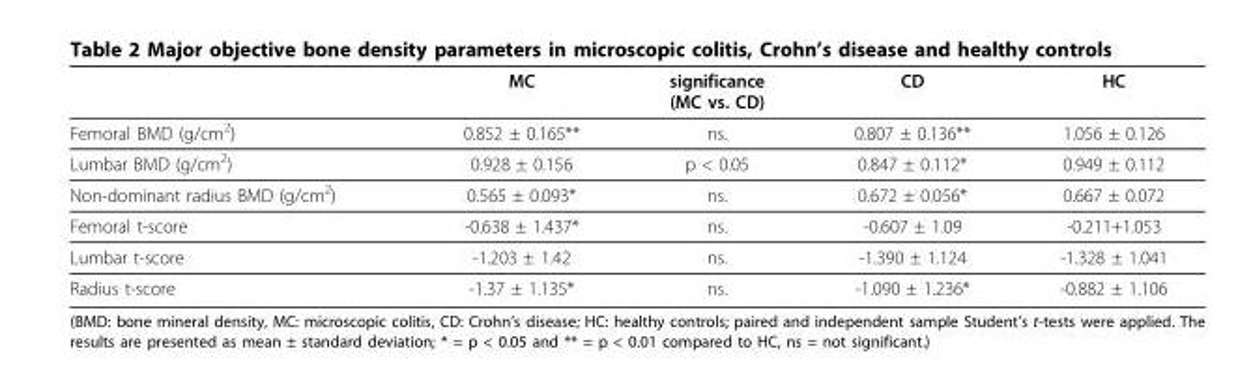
<table><thead><tr><td></td><td>MC</td><td>significance (MC vs. CD)</td><td>CD</td><td>HC</td></tr></thead><tbody><tr><td>Femoral BMD (g/cm<sup>2</sup>)</td><td>0.852 ± 0.165**</td><td>ns.</td><td>0.807 ± 0.136**</td><td>1.056 ± 0.126</td></tr><tr><td>Lumbar BMD (g/cm<sup>2</sup>)</td><td>0.928 ± 0.156</td><td>p &lt; 0.05</td><td>0.847 ± 0.112*</td><td>0.949 ± 0.112</td></tr><tr><td>Non-dominant radius BMD (g/cm<sup>2</sup>)</td><td>0.565 ± 0.093*</td><td>ns.</td><td>0.672 ± 0.056*</td><td>0.667 ± 0.072</td></tr><tr><td>Femoral t-score</td><td>-0.638 ± 1.437*</td><td>ns.</td><td>-0.607 ± 1.09</td><td>-0.211+1.053</td></tr><tr><td>Lumbar t-score</td><td>-1.203 ± 1.42</td><td>ns.</td><td>-1.390 ± 1.124</td><td>-1.328 ± 1.041</td></tr><tr><td>Radius t-score</td><td>-1.37 ± 1.135*</td><td>ns.</td><td>-1.090 ± 1.236*</td><td>-0.882 ± 1.106</td></tr></tbody></table>